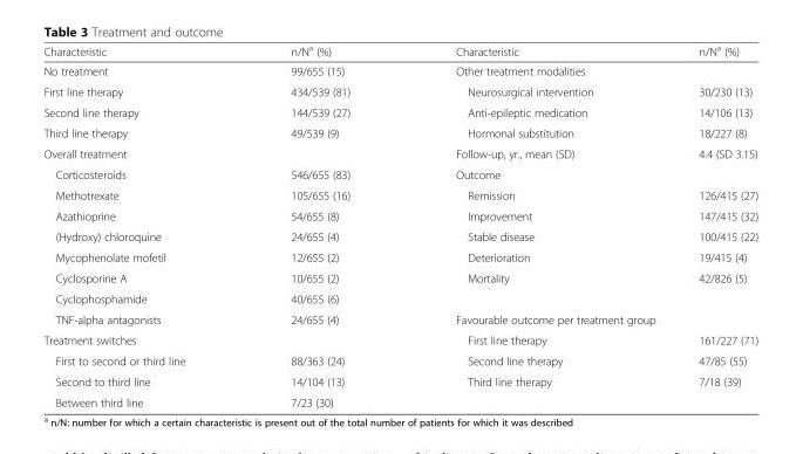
<table><thead><tr><td>Characteristic</td><td>n/N<sup>a</sup> (%)</td><td>Characteristic</td><td>n/N<sup>a</sup> (%)</td></tr></thead><tbody><tr><td>No treatment</td><td>99/655 (15)</td><td>Other treatment modalities</td><td></td></tr><tr><td>First line therapy</td><td>434/539 (81)</td><td>Neurosurgical intervention</td><td>30/230 (13)</td></tr><tr><td>Second line therapy</td><td>144/539 (27)</td><td>Anti-epileptic medication</td><td>14/106 (13)</td></tr><tr><td>Third line therapy</td><td>49/539 (9)</td><td>Hormonal substitution</td><td>18/227 (8)</td></tr><tr><td>Overall treatment</td><td></td><td>Follow-up, yr., mean (SD)</td><td>4.4 (SD 3.15)</td></tr><tr><td>Corticosteroids</td><td>546/655 (83)</td><td>Outcome</td><td></td></tr><tr><td>Methotrexate</td><td>105/655 (16)</td><td>Remission</td><td>126/415 (27)</td></tr><tr><td>Azathioprine</td><td>54/655 (8)</td><td>Improvement</td><td>147/415 (32)</td></tr><tr><td>(Hydroxy) chloroquine</td><td>24/655 (4)</td><td>Stable disease</td><td>100/415 (22)</td></tr><tr><td>Mycophenolate mofetil</td><td>12/655 (2)</td><td>Deterioration</td><td>19/415 (4)</td></tr><tr><td>Cyclosporine A</td><td>10/655 (2)</td><td>Mortality</td><td>42/826 (5)</td></tr><tr><td>Cyclophosphamide</td><td>40/655 (6)</td><td></td><td></td></tr><tr><td>TNF-alpha antagonists</td><td>24/655 (4)</td><td colspan="2">Favourable outcome per treatment group</td></tr><tr><td>Treatment switches</td><td></td><td>First line therapy</td><td>161/227 (71)</td></tr><tr><td>First to second or third line</td><td>88/363 (24)</td><td>Second line therapy</td><td>47/85 (55)</td></tr><tr><td>Second to third line</td><td>14/104 (13)</td><td>Third line therapy</td><td>7/18 (39)</td></tr><tr><td>Between third line</td><td>7/23 (30)</td><td></td><td></td></tr></tbody></table>